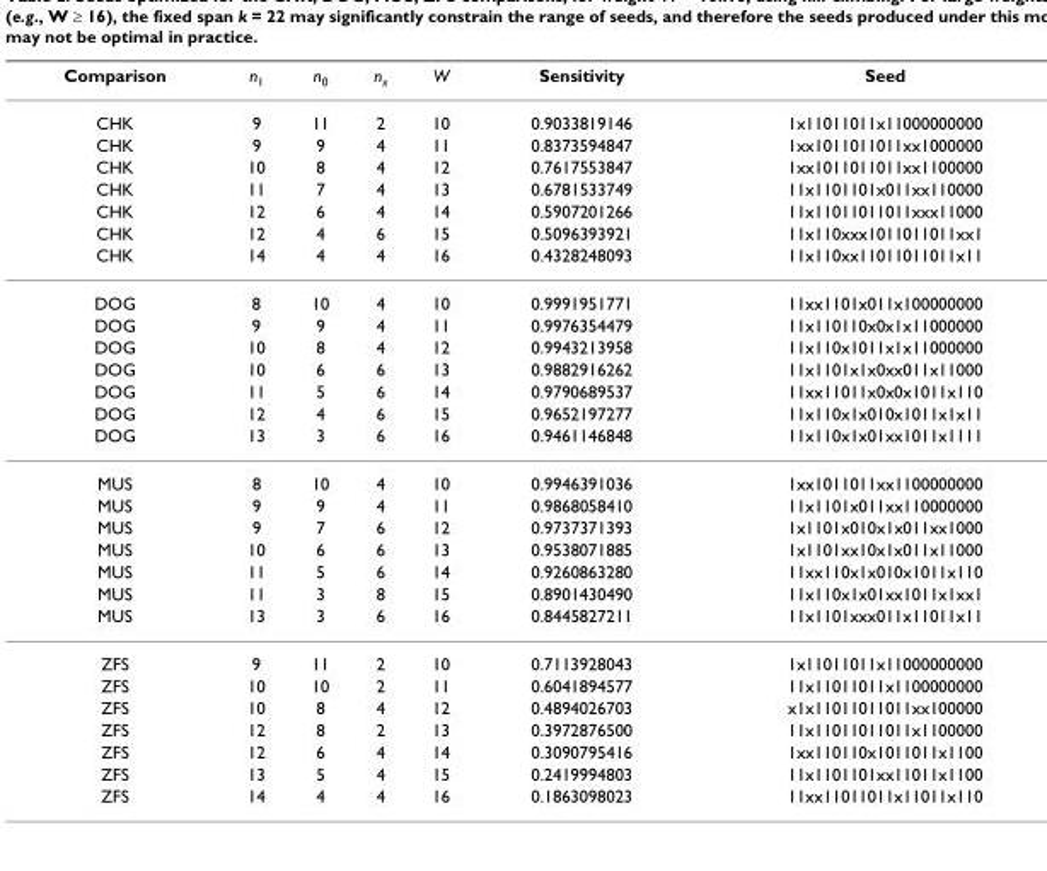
<table><thead><tr><td>Comparison</td><td>n<sub>1</sub></td><td>n<sub>0</sub></td><td>n<sub>x</sub></td><td>W</td><td>Sensitivity</td><td>Seed</td></tr></thead><tbody><tr><td>CHK</td><td>9</td><td>11</td><td>2</td><td>10</td><td>0.9033819146</td><td>1x11011011x11000000000</td></tr><tr><td>CHK</td><td>9</td><td>9</td><td>4</td><td>11</td><td>0.8373594847</td><td>1xx1011011011xx1000000</td></tr><tr><td>CHK</td><td>10</td><td>8</td><td>4</td><td>12</td><td>0.7617553847</td><td>1xx1011011011xx1100000</td></tr><tr><td>CHK</td><td>11</td><td>7</td><td>4</td><td>13</td><td>0.6781533749</td><td>11x1101101x011xx110000</td></tr><tr><td>CHK</td><td>12</td><td>6</td><td>4</td><td>14</td><td>0.5907201266</td><td>11x11011011011xxx11000</td></tr><tr><td>CHK</td><td>12</td><td>4</td><td>6</td><td>15</td><td>0.5096393921</td><td>11x110xxx1011011011xx1</td></tr><tr><td>CHK</td><td>14</td><td>4</td><td>4</td><td>16</td><td>0.4328248093</td><td>11x110xx11011011011x11</td></tr><tr><td>DOG</td><td>8</td><td>10</td><td>4</td><td>10</td><td>0.9991951771</td><td>11xx1101x011x100000000</td></tr><tr><td>DOG</td><td>9</td><td>9</td><td>4</td><td>11</td><td>0.9976354479</td><td>11x110110x0x1x11000000</td></tr><tr><td>DOG</td><td>10</td><td>8</td><td>4</td><td>12</td><td>0.9943213958</td><td>11x110x1011x1x11000000</td></tr><tr><td>DOG</td><td>10</td><td>6</td><td>6</td><td>13</td><td>0.9882916262</td><td>11x1101x1x0xx011x11000</td></tr><tr><td>DOG</td><td>11</td><td>5</td><td>6</td><td>14</td><td>0.9790689537</td><td>11xx11011x0x0x1011x110</td></tr><tr><td>DOG</td><td>12</td><td>4</td><td>6</td><td>15</td><td>0.9652197277</td><td>11x110x1x010x1011x1x11</td></tr><tr><td>DOG</td><td>13</td><td>3</td><td>6</td><td>16</td><td>0.9461146848</td><td>11x110x1x01xx1011x1111</td></tr><tr><td>MUS</td><td>8</td><td>10</td><td>4</td><td>10</td><td>0.9946391036</td><td>1xx1011011xx1100000000</td></tr><tr><td>MUS</td><td>9</td><td>9</td><td>4</td><td>11</td><td>0.9868058410</td><td>11x1101x011xx110000000</td></tr><tr><td>MUS</td><td>9</td><td>7</td><td>6</td><td>12</td><td>0.9737371393</td><td>1x1101x010x1x011xx1000</td></tr><tr><td>MUS</td><td>10</td><td>6</td><td>6</td><td>13</td><td>0.9538071885</td><td>1x1101xx10x1x011x11000</td></tr><tr><td>MUS</td><td>11</td><td>5</td><td>6</td><td>14</td><td>0.9260863280</td><td>11xx110x1x010x1011x110</td></tr><tr><td>MUS</td><td>11</td><td>3</td><td>8</td><td>15</td><td>0.8901430490</td><td>11x110x1x01xx1011x1xx1</td></tr><tr><td>MUS</td><td>13</td><td>3</td><td>6</td><td>16</td><td>0.8445827211</td><td>11x1101xxx011x11011x11</td></tr><tr><td>ZFS</td><td>9</td><td>11</td><td>2</td><td>10</td><td>0.7113928043</td><td>1x11011011x11000000000</td></tr><tr><td>ZFS</td><td>10</td><td>10</td><td>2</td><td>11</td><td>0.6041894577</td><td>11x11011011x1100000000</td></tr><tr><td>ZFS</td><td>10</td><td>8</td><td>4</td><td>12</td><td>0.4894026703</td><td>x1x11011011011xx100000</td></tr><tr><td>ZFS</td><td>12</td><td>8</td><td>2</td><td>13</td><td>0.3972876500</td><td>11x11011011011x1100000</td></tr><tr><td>ZFS</td><td>12</td><td>6</td><td>4</td><td>14</td><td>0.3090795416</td><td>1xx110110x1011011x1100</td></tr><tr><td>ZFS</td><td>13</td><td>5</td><td>4</td><td>15</td><td>0.2419994803</td><td>11x1101101xx11011x1100</td></tr><tr><td>ZFS</td><td>14</td><td>4</td><td>4</td><td>16</td><td>0.1863098023</td><td>11xx11011011x11011x110</td></tr></tbody></table>